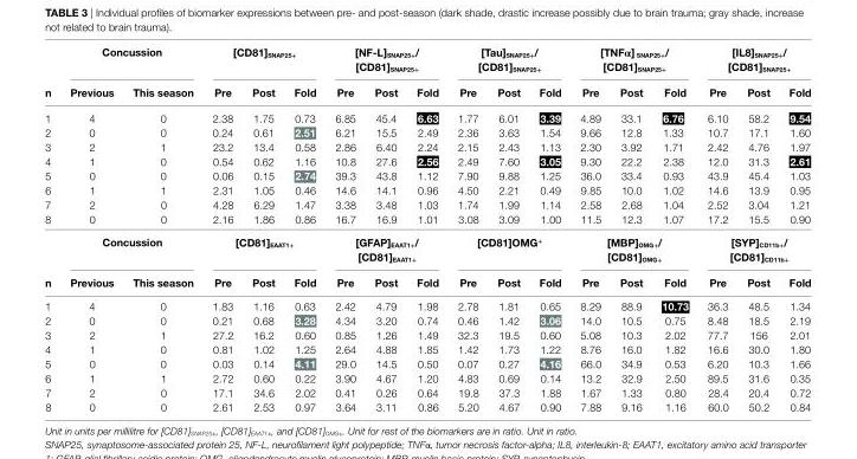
<table><thead><tr><td rowspan="2">n</td><td colspan="2">concussion</td><td colspan="3">[cD81]<sub>snaP25+</sub></td><td colspan="3">[nF-l]<sub>snaP25+</sub>/ [cD81]<sub>snaP25+</sub></td><td colspan="3">[Tau]<sub>snaP25+</sub>/ [cD81]<sub>snaP25+</sub></td><td colspan="3">[TnFα] <sub>snaP25+</sub>/ [cD81]<sub>snaP25+</sub></td><td colspan="3">[il8]<sub>snaP25+</sub>/ [cD81]<sub>snaP25+</sub></td></tr><tr><td>Previous</td><td>This season</td><td>Pre</td><td>Post</td><td>Fold</td><td>Pre</td><td>Post</td><td>Fold</td><td>Pre</td><td>Post</td><td>Fold</td><td>Pre</td><td>Post</td><td>Fold</td><td>Pre</td><td>Post</td><td>Fold</td></tr></thead><tbody><tr><td>1</td><td>4</td><td>0</td><td>2.38</td><td>1.75</td><td>0.73</td><td>6.85</td><td>45.4</td><td>6.63</td><td>1.77</td><td>6.01</td><td>3.39</td><td>4.89</td><td>33.1</td><td>6.76</td><td>6.10</td><td>58.2</td><td>9.54</td></tr><tr><td>2</td><td>0</td><td>0</td><td>0.24</td><td>0.61</td><td>2.51</td><td>6.21</td><td>15.5</td><td>2.49</td><td>2.36</td><td>3.63</td><td>1.54</td><td>9.66</td><td>12.8</td><td>1.33</td><td>10.7</td><td>17.1</td><td>1.60</td></tr><tr><td>3</td><td>2</td><td>1</td><td>23.2</td><td>13.4</td><td>0.58</td><td>2.86</td><td>6.40</td><td>2.24</td><td>2.15</td><td>2.43</td><td>1.13</td><td>2.30</td><td>3.92</td><td>1.71</td><td>2.42</td><td>4.76</td><td>1.97</td></tr><tr><td>4</td><td>1</td><td>0</td><td>0.54</td><td>0.62</td><td>1.16</td><td>10.8</td><td>27.6</td><td>2.56</td><td>2.49</td><td>7.60</td><td>3.05</td><td>9.30</td><td>22.2</td><td>2.38</td><td>12.0</td><td>31.3</td><td>2.61</td></tr><tr><td>5</td><td>0</td><td>0</td><td>0.06</td><td>0.15</td><td>2.74</td><td>39.3</td><td>43.8</td><td>1.12</td><td>7.90</td><td>9.88</td><td>1.25</td><td>36.0</td><td>33.4</td><td>0.93</td><td>43.9</td><td>45.4</td><td>1.03</td></tr><tr><td>6</td><td>1</td><td>1</td><td>2.31</td><td>1.05</td><td>0.46</td><td>14.6</td><td>14.1</td><td>0.96</td><td>4.50</td><td>2.21</td><td>0.49</td><td>9.85</td><td>10.0</td><td>1.02</td><td>14.6</td><td>13.9</td><td>0.95</td></tr><tr><td>7</td><td>2</td><td>0</td><td>4.28</td><td>6.29</td><td>1.47</td><td>3.38</td><td>3.48</td><td>1.03</td><td>1.74</td><td>1.99</td><td>1.14</td><td>2.58</td><td>2.68</td><td>1.04</td><td>2.52</td><td>3.04</td><td>1.21</td></tr><tr><td rowspan="2">8</td><td>0</td><td>0</td><td>2.16</td><td>1.86</td><td>0.86</td><td>16.7</td><td>16.9</td><td>1.01</td><td>3.08</td><td>3.09</td><td>1.00</td><td>11.5</td><td>12.3</td><td>1.07</td><td>17.2</td><td>15.5</td><td>0.90</td></tr><tr><td colspan="2">concussion</td><td colspan="3">[cD81]<sub>eaaT1+</sub></td><td colspan="3">[gFaP]<sub>eaaT1+</sub>/ [cD81]<sub>eaaT1+</sub></td><td colspan="3">[cD81]OMg<sup>+</sup></td><td colspan="3">[MBP]<sub>OMg+</sub>/ [cD81]<sub>OMg+</sub></td><td colspan="3">[sYP]<sub>cD11b+</sub>/ [cD81]<sub>cD11b+</sub></td></tr><tr><td>n</td><td>Previous</td><td>This season</td><td>Pre</td><td>Post</td><td>Fold</td><td>Pre</td><td>Post</td><td>Fold</td><td>Pre</td><td>Post</td><td>Fold</td><td>Pre</td><td>Post</td><td>Fold</td><td>Pre</td><td>Post</td><td>Fold</td></tr><tr><td>1</td><td>4</td><td>0</td><td>1.83</td><td>1.16</td><td>0.63</td><td>2.42</td><td>4.79</td><td>1.98</td><td>2.78</td><td>1.81</td><td>0.65</td><td>8.29</td><td>88.9</td><td>10.73</td><td>36.3</td><td>48.5</td><td>1.34</td></tr><tr><td>2</td><td>0</td><td>0</td><td>0.21</td><td>0.68</td><td>3.28</td><td>4.34</td><td>3.20</td><td>0.74</td><td>0.46</td><td>1.42</td><td>3.06</td><td>14.0</td><td>10.5</td><td>0.75</td><td>8.48</td><td>18.5</td><td>2.19</td></tr><tr><td>3</td><td>2</td><td>1</td><td>27.2</td><td>16.2</td><td>0.60</td><td>0.85</td><td>1.26</td><td>1.49</td><td>32.3</td><td>19.5</td><td>0.60</td><td>5.08</td><td>10.3</td><td>2.02</td><td>77.7</td><td>156</td><td>2.01</td></tr><tr><td>4</td><td>1</td><td>0</td><td>0.81</td><td>1.02</td><td>1.25</td><td>2.64</td><td>4.88</td><td>1.85</td><td>1.42</td><td>1.73</td><td>1.22</td><td>8.76</td><td>16.0</td><td>1.82</td><td>16.6</td><td>30.0</td><td>1.80</td></tr><tr><td>5</td><td>0</td><td>0</td><td>0.03</td><td>0.14</td><td>4.11</td><td>29.0</td><td>14.5</td><td>0.50</td><td>0.07</td><td>0.27</td><td>4.16</td><td>66.0</td><td>34.9</td><td>0.53</td><td>6.20</td><td>10.3</td><td>1.66</td></tr><tr><td>6</td><td>1</td><td>1</td><td>2.72</td><td>0.60</td><td>0.22</td><td>3.90</td><td>4.67</td><td>1.20</td><td>4.83</td><td>0.69</td><td>0.14</td><td>13.2</td><td>32.9</td><td>2.50</td><td>89.5</td><td>31.6</td><td>0.35</td></tr><tr><td>7</td><td>2</td><td>0</td><td>17.1</td><td>34.6</td><td>2.02</td><td>0.41</td><td>0.26</td><td>0.64</td><td>19.8</td><td>37.3</td><td>1.88</td><td>1.67</td><td>1.33</td><td>0.80</td><td>28.4</td><td>20.4</td><td>0.72</td></tr><tr><td>8</td><td>0</td><td>0</td><td>2.61</td><td>2.53</td><td>0.97</td><td>3.64</td><td>3.11</td><td>0.86</td><td>5.20</td><td>4.67</td><td>0.90</td><td>7.88</td><td>9.16</td><td>1.16</td><td>60.0</td><td>50.2</td><td>0.84</td></tr></tbody></table>